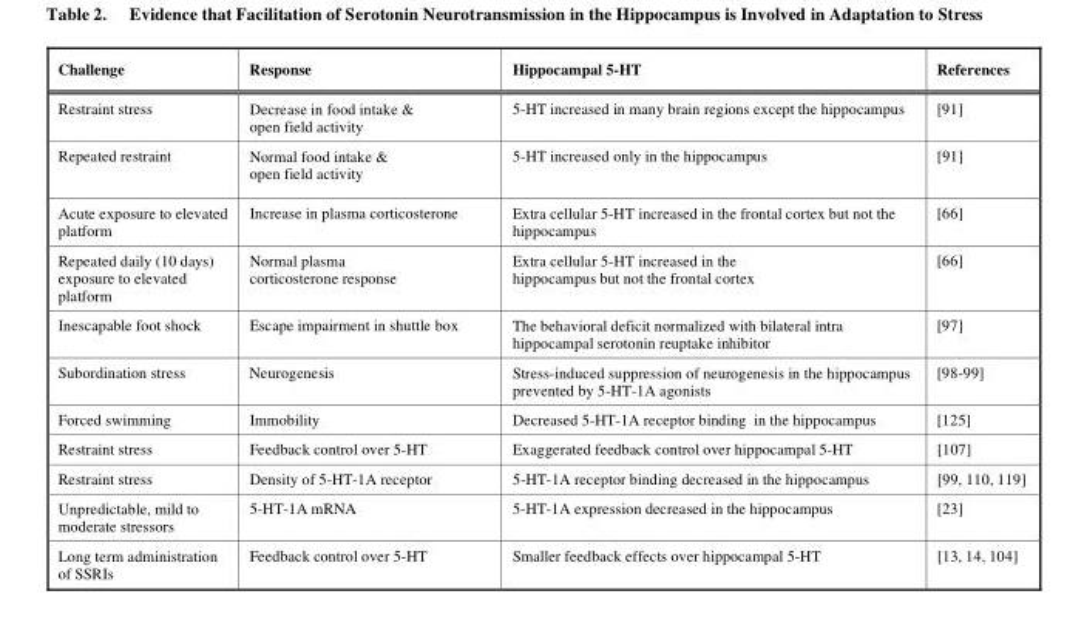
<table><thead><tr><td>Challenge</td><td>Response</td><td>Hippocampal 5-HT</td><td>References</td></tr></thead><tbody><tr><td>Restraint stress</td><td>Decrease in food intake &amp; open field activity</td><td>5-HT increased in many brain regions except the hippocampus</td><td>[91]</td></tr><tr><td>Repeated restraint</td><td>Normal food intake &amp; open field activity</td><td>5-HT increased only in the hippocampus</td><td>[91]</td></tr><tr><td>Acute exposure to elevated platform</td><td>Increase in plasma corticosterone</td><td>Extra cellular 5-HT increased in the frontal cortex but not the hippocampus</td><td>[66]</td></tr><tr><td>Repeated daily (10 days) exposure to elevated platform</td><td>Normal plasma corticosterone response</td><td>Extra cellular 5-HT increased in the hippocampus but not the frontal cortex</td><td>[66]</td></tr><tr><td>Inescapable foot shock</td><td>Escape impairment in shuttle box</td><td>The behavioral deficit normalized with bilateral intra hippocampal serotonin reuptake inhibitor</td><td>[97]</td></tr><tr><td>Subordination stress</td><td>Neurogenesis</td><td>Stress-induced suppression of neurogenesis in the hippocampus prevented by 5-HT-1A agonists</td><td>[98-99]</td></tr><tr><td>Forced swimming</td><td>Immobility</td><td>Decreased 5-HT-1A receptor binding in the hippocampus</td><td>[125]</td></tr><tr><td>Restraint stress</td><td>Feedback control over 5-HT</td><td>Exaggerated feedback control over hippocampal 5-HT</td><td>[107]</td></tr><tr><td>Restraint stress</td><td>Density of 5-HT-1A receptor</td><td>5-HT-1A receptor binding decreased in the hippocampus</td><td>[99, 110, 119]</td></tr><tr><td>Unpredictable, mild to moderate stressors</td><td>5-HT-1A mRNA</td><td>5-HT-1A expression decreased in the hippocampus</td><td>[23]</td></tr><tr><td>Long term administration of SSRIs</td><td>Feedback control over 5-HT</td><td>Smaller feedback effects over hippocampal 5-HT</td><td>[13, 14, 104]</td></tr></tbody></table>